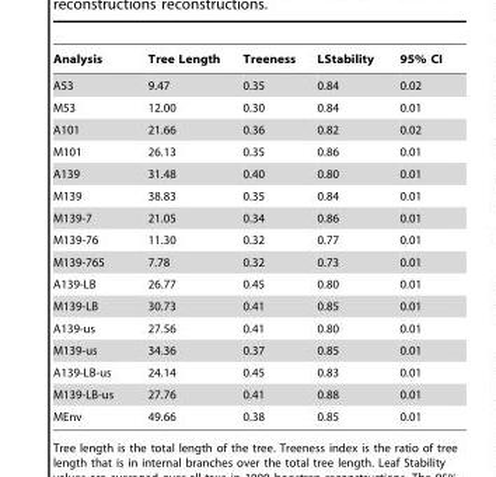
<table><thead><tr><td>Analysis</td><td>Tree Length</td><td>Treeness</td><td>LStability</td><td>95% CI</td></tr></thead><tbody><tr><td>A53</td><td>9.47</td><td>0.35</td><td>0.84</td><td>0.02</td></tr><tr><td>M53</td><td>12.00</td><td>0.30</td><td>0.84</td><td>0.01</td></tr><tr><td>A101</td><td>21.66</td><td>0.36</td><td>0.82</td><td>0.02</td></tr><tr><td>M101</td><td>26.13</td><td>0.35</td><td>0.86</td><td>0.01</td></tr><tr><td>A139</td><td>31.48</td><td>0.40</td><td>0.80</td><td>0.01</td></tr><tr><td>M139</td><td>38.83</td><td>0.35</td><td>0.84</td><td>0.01</td></tr><tr><td>M139-7</td><td>21.05</td><td>0.34</td><td>0.86</td><td>0.01</td></tr><tr><td>M139-76</td><td>11.30</td><td>0.32</td><td>0.77</td><td>0.01</td></tr><tr><td>M139-765</td><td>7.78</td><td>0.32</td><td>0.73</td><td>0.01</td></tr><tr><td>A139-LB</td><td>26.77</td><td>0.45</td><td>0.80</td><td>0.01</td></tr><tr><td>M139-LB</td><td>30.73</td><td>0.41</td><td>0.85</td><td>0.01</td></tr><tr><td>A139-us</td><td>27.56</td><td>0.41</td><td>0.80</td><td>0.01</td></tr><tr><td>M139-us</td><td>34.36</td><td>0.37</td><td>0.85</td><td>0.01</td></tr><tr><td>A139-LB-us</td><td>24.14</td><td>0.45</td><td>0.83</td><td>0.01</td></tr><tr><td>M139-LB-us</td><td>27.76</td><td>0.41</td><td>0.88</td><td>0.01</td></tr><tr><td>MEnv</td><td>49.66</td><td>0.38</td><td>0.85</td><td>0.01</td></tr></tbody></table>